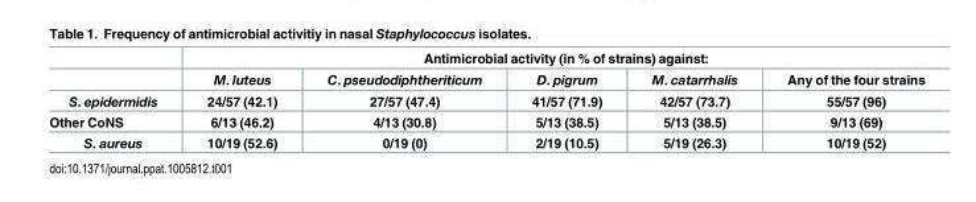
<table><thead><tr><td rowspan="2"></td><td colspan="5">Antimicrobial activity (in % of strains) against:</td></tr><tr><td>M. luteus</td><td>C. pseudodiphtheriticum</td><td>D. pigrum</td><td>M. catarrhalis</td><td>Any of the four strains</td></tr></thead><tbody><tr><td>S. epidermidis</td><td>24/57 (42.1)</td><td>27/57 (47.4)</td><td>41/57 (71.9)</td><td>42/57 (73.7)</td><td>55/57 (96)</td></tr><tr><td>Other CoNS</td><td>6/13 (46.2)</td><td>4/13 (30.8)</td><td>5/13 (38.5)</td><td>5/13 (38.5)</td><td>9/13 (69)</td></tr><tr><td>S. aureus</td><td>10/19 (52.6)</td><td>0/19 (0)</td><td>2/19 (10.5)</td><td>5/19 (26.3)</td><td>10/19 (52)</td></tr></tbody></table>